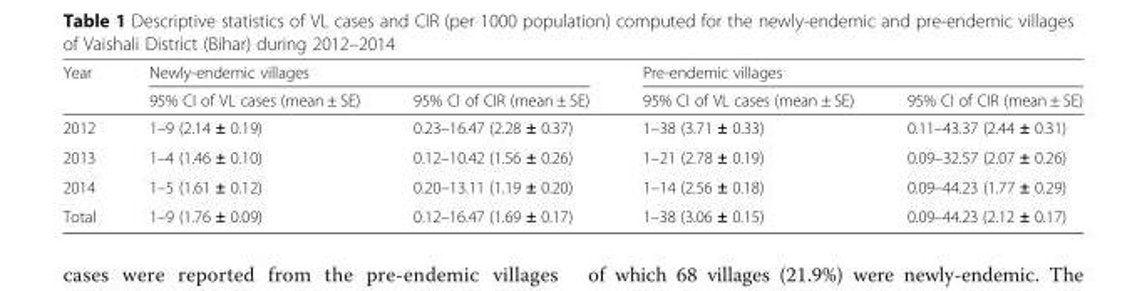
<table><thead><tr><td rowspan="2">Year</td><td colspan="2">Newly-endemic villages</td><td colspan="2">Pre-endemic villages</td></tr><tr><td>95% CI of VL cases (mean ± SE)</td><td>95% CI of CIR (mean ± SE)</td><td>95% CI of VL cases (mean ± SE)</td><td>95% CI of CIR (mean ± SE)</td></tr></thead><tbody><tr><td>2012</td><td>1–9 (2.14 ± 0.19)</td><td>0.23–16.47 (2.28 ± 0.37)</td><td>1–38 (3.71 ± 0.33)</td><td>0.11–43.37 (2.44 ± 0.31)</td></tr><tr><td>2013</td><td>1–4 (1.46 ± 0.10)</td><td>0.12–10.42 (1.56 ± 0.26)</td><td>1–21 (2.78 ± 0.19)</td><td>0.09–32.57 (2.07 ± 0.26)</td></tr><tr><td>2014</td><td>1–5 (1.61 ± 0.12)</td><td>0.20–13.11 (1.19 ± 0.20)</td><td>1–14 (2.56 ± 0.18)</td><td>0.09–44.23 (1.77 ± 0.29)</td></tr><tr><td>Total</td><td>1–9 (1.76 ± 0.09)</td><td>0.12–16.47 (1.69 ± 0.17)</td><td>1–38 (3.06 ± 0.15)</td><td>0.09–44.23 (2.12 ± 0.17)</td></tr></tbody></table>